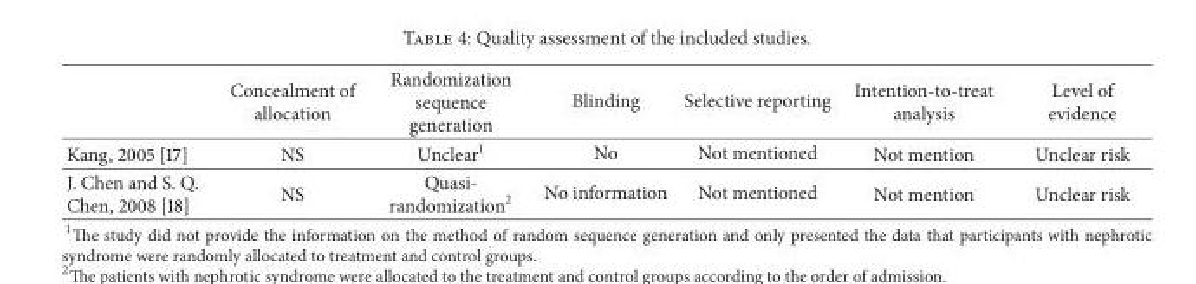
<table><thead><tr><td></td><td>Concealment of allocation</td><td>Randomization sequence generation</td><td>Blinding</td><td>Selective reporting</td><td>Intention-to-treat analysis</td><td>Level of evidence</td></tr></thead><tbody><tr><td>Kang, 2005 [17]</td><td>NS</td><td>Unclear<sup>1</sup></td><td>No</td><td>Not mentioned</td><td>Not mention</td><td>Unclear risk</td></tr><tr><td>J. Chen and S. Q. Chen, 2008 [18]</td><td>NS</td><td>Quasi- randomization<sup>2</sup></td><td>No information</td><td>Not mentioned</td><td>Not mention</td><td>Unclear risk</td></tr></tbody></table>